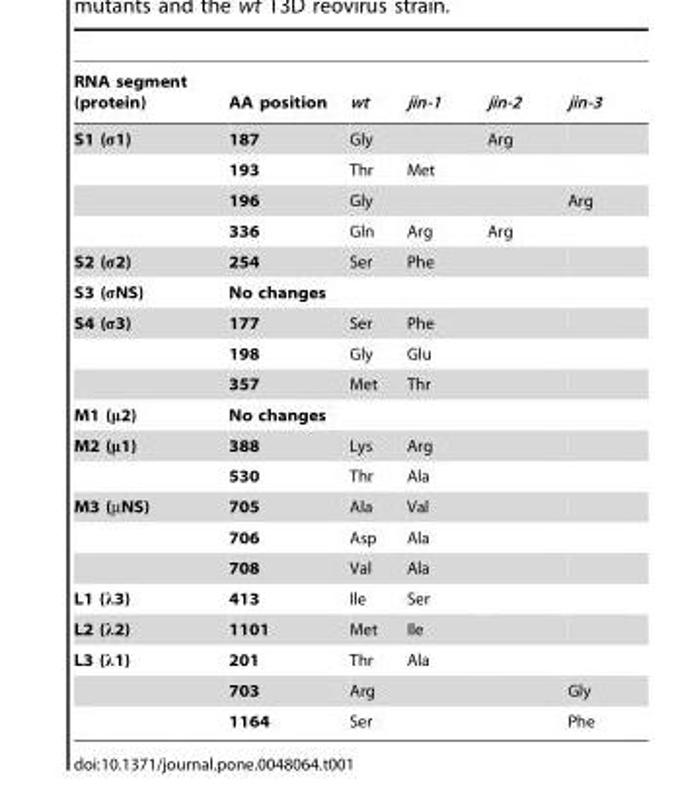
<table><thead><tr><td>RNA segment (protein)</td><td>AA position</td><td>wt</td><td>jin-1</td><td>jin-2</td><td>jin-3</td></tr></thead><tbody><tr><td rowspan="4">S1 (σ1)</td><td>187</td><td>Gly</td><td></td><td>Arg</td><td></td></tr><tr><td>193</td><td>Thr</td><td>Met</td><td></td><td></td></tr><tr><td>196</td><td>Gly</td><td></td><td></td><td>Arg</td></tr><tr><td>336</td><td>Gln</td><td>Arg</td><td>Arg</td><td></td></tr><tr><td>S2 (σ2)</td><td>254</td><td>Ser</td><td>Phe</td><td></td><td></td></tr><tr><td>S3 (σNS)</td><td colspan="5">No changes</td></tr><tr><td rowspan="3">S4 (σ3)</td><td>177</td><td>Ser</td><td>Phe</td><td></td><td></td></tr><tr><td>198</td><td>Gly</td><td>Glu</td><td></td><td></td></tr><tr><td>357</td><td>Met</td><td>Thr</td><td></td><td></td></tr><tr><td>M1 (μ2)</td><td colspan="5">No changes</td></tr><tr><td rowspan="2">M2 (μ1)</td><td>388</td><td>Lys</td><td>Arg</td><td></td><td></td></tr><tr><td>530</td><td>Thr</td><td>Ala</td><td></td><td></td></tr><tr><td rowspan="3">M3 (µNS)</td><td>705</td><td>Ala</td><td>Val</td><td></td><td></td></tr><tr><td>706</td><td>Asp</td><td>Ala</td><td></td><td></td></tr><tr><td>708</td><td>Val</td><td>Ala</td><td></td><td></td></tr><tr><td>L1 (λ3)</td><td>413</td><td>Ile</td><td>Ser</td><td></td><td></td></tr><tr><td>L2 (λ2)</td><td>1101</td><td>Met</td><td>Ile</td><td></td><td></td></tr><tr><td rowspan="3">L3 (λ1)</td><td>201</td><td>Thr</td><td>Ala</td><td></td><td></td></tr><tr><td>703</td><td>Arg</td><td></td><td></td><td>Gly</td></tr><tr><td>1164</td><td>Ser</td><td></td><td></td><td>Phe</td></tr></tbody></table>